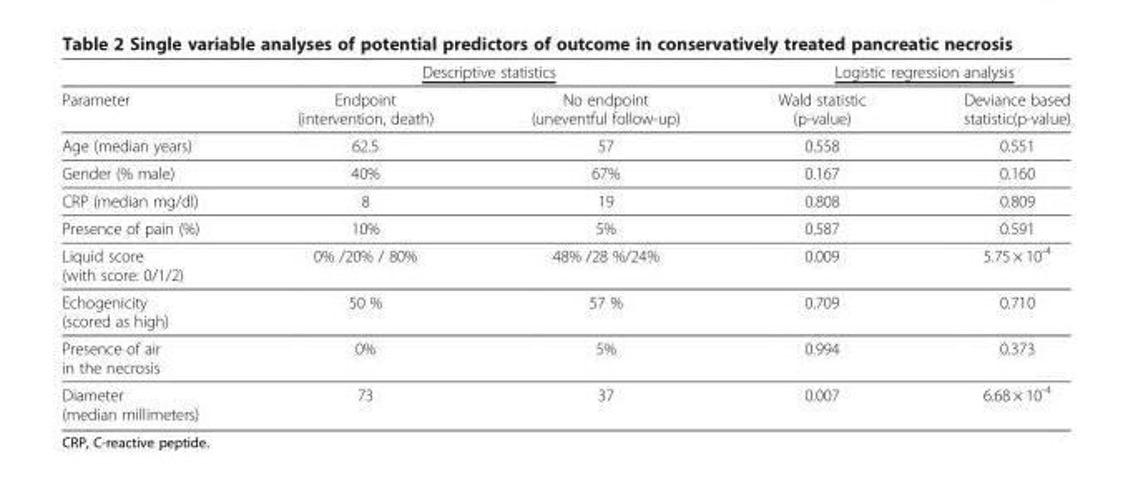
<table><thead><tr><td rowspan="2">Parameter</td><td colspan="2">Descriptive statistics</td><td colspan="2">Logistic regression analysis</td></tr><tr><td>Endpoint (intervention, death)</td><td>No endpoint (uneventful follow-up)</td><td>Wald statistic (p-value)</td><td>Deviance based statistic(p-value)</td></tr></thead><tbody><tr><td>Age (median years)</td><td>62.5</td><td>57</td><td>0.558</td><td>0.551</td></tr><tr><td>Gender (% male)</td><td>40%</td><td>67%</td><td>0.167</td><td>0.160</td></tr><tr><td>CRP (median mg/dl)</td><td>8</td><td>19</td><td>0.808</td><td>0.809</td></tr><tr><td>Presence of pain (%)</td><td>10%</td><td>5%</td><td>0.587</td><td>0.591</td></tr><tr><td>Liquid score (with score: 0/1/2)</td><td>0% /20% / 80%</td><td>48% /28 %/24%</td><td>0.009</td><td>5.75 × 10<sup>-4</sup></td></tr><tr><td>Echogenicity (scored as high)</td><td>50 %</td><td>57 %</td><td>0.709</td><td>0.710</td></tr><tr><td>Presence of air in the necrosis</td><td>0%</td><td>5%</td><td>0.994</td><td>0.373</td></tr><tr><td>Diameter (median millimeters)</td><td>73</td><td>37</td><td>0.007</td><td>6.68 × 10<sup>-4</sup></td></tr></tbody></table>